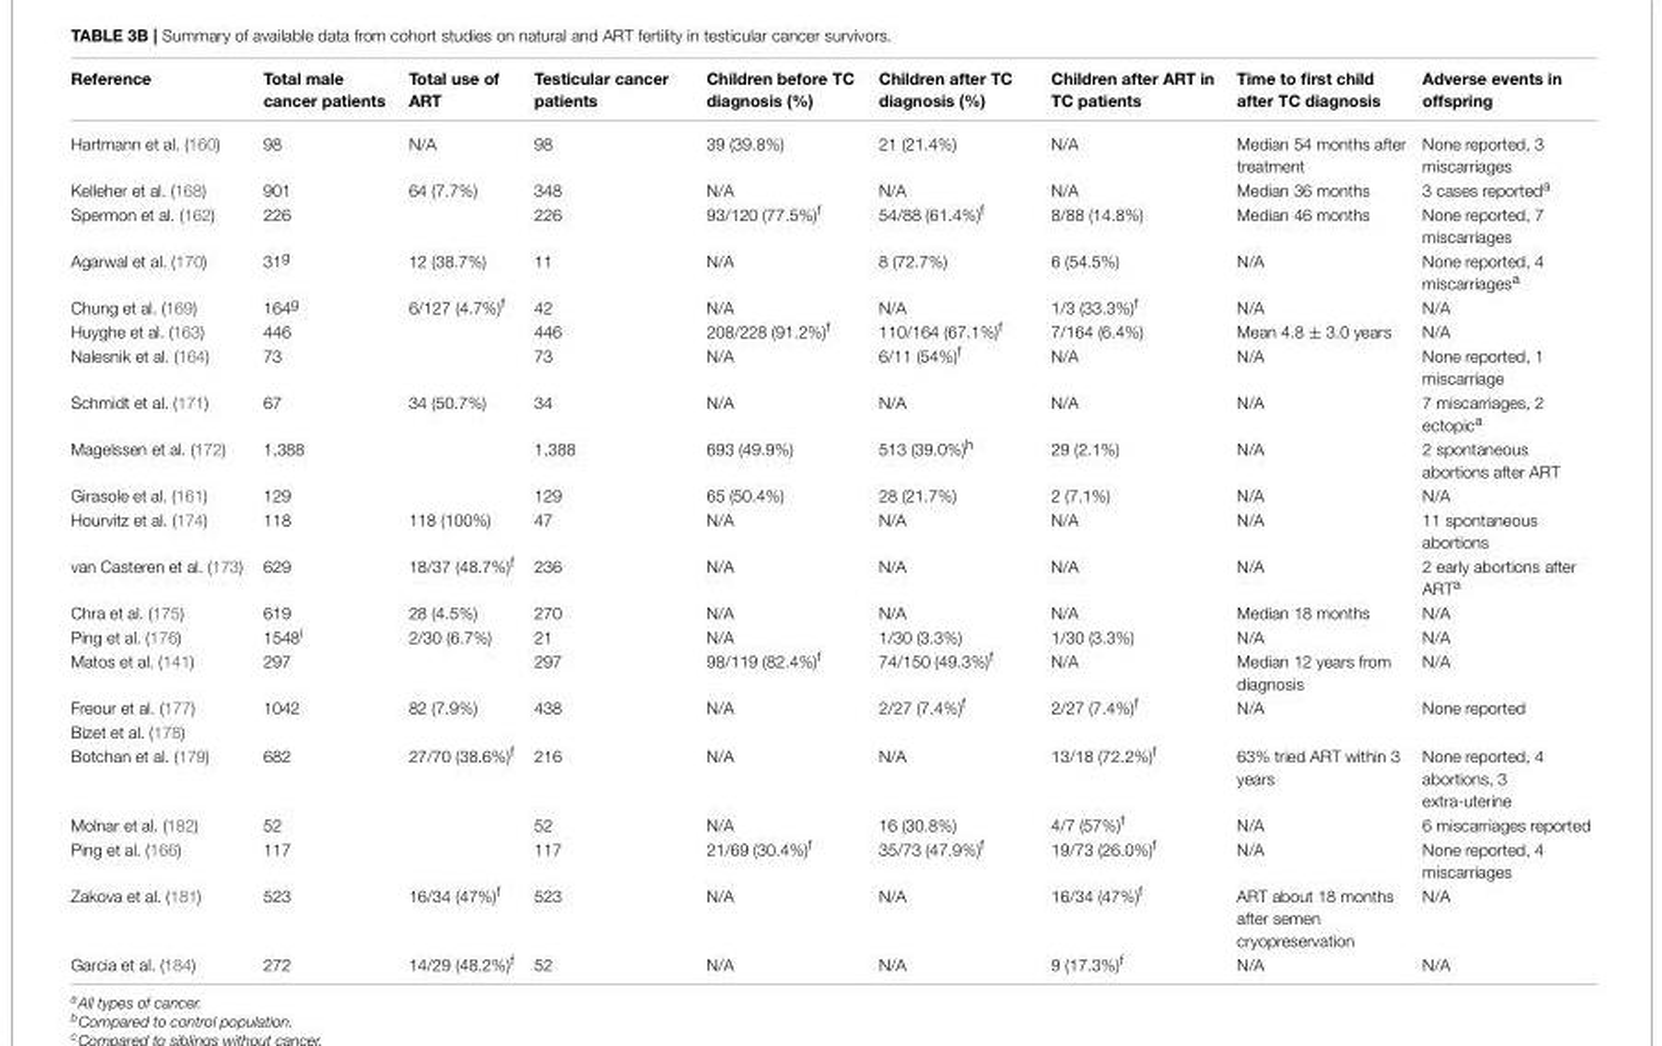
<table><thead><tr><td>Reference</td><td>Total male cancer patients</td><td>Total use of ART</td><td>Testicular cancer patients</td><td>Children before TC diagnosis (%)</td><td>Children after TC diagnosis (%)</td><td>Children after ART in TC patients</td><td>Time to first child after TC diagnosis</td><td>Adverse events in offspring</td></tr></thead><tbody><tr><td>Hartmann et al. (160)</td><td>98</td><td>N/A</td><td>98</td><td>39 (39.8%)</td><td>21 (21.4%)</td><td>N/A</td><td>Median 54 months after treatment</td><td>None reported, 3 miscarriages</td></tr><tr><td>Kelleher et al. (168)</td><td>901</td><td>64 (7.7%)</td><td>348</td><td>N/A</td><td>N/A</td><td>N/A</td><td>Median 36 months</td><td>3 cases reported<sup>a</sup></td></tr><tr><td>Spermon et al. (162)</td><td>226</td><td></td><td>226</td><td>93/120 (77.5%)<sup>f</sup></td><td>54/88 (61.4%)<sup>f</sup></td><td>8/88 (14.8%)</td><td>Median 46 months</td><td>None reported, 7 miscarriages</td></tr><tr><td>Agarwal et al. (170)</td><td>31<sup>g</sup></td><td>12 (38.7%)</td><td>11</td><td>N/A</td><td>8 (72.7%)</td><td>6 (54.5%)</td><td>N/A</td><td>None reported, 4 miscarriages<sup>a</sup></td></tr><tr><td>Chung et al. (169)</td><td>164<sup>g</sup></td><td>6/127 (4.7%)<sup>f</sup></td><td>42</td><td>N/A</td><td>N/A</td><td>1/3 (33.3%)<sup>f</sup></td><td>N/A</td><td>N/A</td></tr><tr><td>Huyghe et al. (163)</td><td>446</td><td></td><td>446</td><td>208/228 (91.2%)<sup>f</sup></td><td>110/164 (67.1%)<sup>f</sup></td><td>7/164 (6.4%)</td><td>Mean 4.8 ± 3.0 years</td><td>N/A</td></tr><tr><td>Nalesnik et al. (164)</td><td>73</td><td></td><td>73</td><td>N/A</td><td>6/11 (54%)<sup>f</sup></td><td>N/A</td><td>N/A</td><td>None reported, 1 miscarriage</td></tr><tr><td>Schmidt et al. (171)</td><td>67</td><td>34 (50.7%)</td><td>34</td><td>N/A</td><td>N/A</td><td>N/A</td><td>N/A</td><td>7 miscarriages, 2 ectopic<sup>a</sup></td></tr><tr><td>Magelssen et al. (172)</td><td>1,388</td><td></td><td>1,388</td><td>693 (49.9%)</td><td>513 (39.0%)<sup>h</sup></td><td>29 (2.1%)</td><td>N/A</td><td>2 spontaneous abortions after ART</td></tr><tr><td>Girasole et al. (161)</td><td>129</td><td></td><td>129</td><td>65 (50.4%)</td><td>28 (21.7%)</td><td>2 (7.1%)</td><td>N/A</td><td>N/A</td></tr><tr><td>Hourvitz et al. (174)</td><td>118</td><td>118 (100%)</td><td>47</td><td>N/A</td><td>N/A</td><td>N/A</td><td>N/A</td><td>11 spontaneous abortions</td></tr><tr><td>van Casteren et al. (173)</td><td>629</td><td>18/37 (48.7%)<sup>f</sup></td><td>236</td><td>N/A</td><td>N/A</td><td>N/A</td><td>N/A</td><td>2 early abortions after ART<sup>a</sup></td></tr><tr><td>Chra et al. (175)</td><td>619</td><td>28 (4.5%)</td><td>270</td><td>N/A</td><td>N/A</td><td>N/A</td><td>Median 18 months</td><td>N/A</td></tr><tr><td>Ping et al. (176)</td><td>1548<sup>i</sup></td><td>2/30 (6.7%)</td><td>21</td><td>N/A</td><td>1/30 (3.3%)</td><td>1/30 (3.3%)</td><td>N/A</td><td>N/A</td></tr><tr><td>Matos et al. (141)</td><td>297</td><td></td><td>297</td><td>98/119 (82.4%)<sup>f</sup></td><td>74/150 (49.3%)<sup>f</sup></td><td>N/A</td><td>Median 12 years from diagnosis</td><td>N/A</td></tr><tr><td>Freour et al. (177)</td><td>1042</td><td>82 (7.9%)</td><td>438</td><td>N/A</td><td>2/27 (7.4%)<sup>f</sup></td><td>2/27 (7.4%)<sup>f</sup></td><td>N/A</td><td>None reported</td></tr><tr><td colspan="9">Bizet et al. (178)</td></tr><tr><td>Botchan et al. (179)</td><td>682</td><td>27/70 (38.6%)<sup>f</sup></td><td>216</td><td>N/A</td><td>N/A</td><td>13/18 (72.2%)<sup>f</sup></td><td>63% tried ART within 3 years</td><td>None reported, 4 abortions, 3 extra-uterine</td></tr><tr><td>Molnar et al. (182)</td><td>52</td><td></td><td>52</td><td>N/A</td><td>16 (30.8%)</td><td>4/7 (57%)<sup>f</sup></td><td>N/A</td><td>6 miscarriages reported</td></tr><tr><td>Ping et al. (166)</td><td>117</td><td></td><td>117</td><td>21/69 (30.4%)<sup>f</sup></td><td>35/73 (47.9%)<sup>f</sup></td><td>19/73 (26.0%)<sup>f</sup></td><td>N/A</td><td>None reported, 4 miscarriages</td></tr><tr><td>Zakova et al. (181)</td><td>523</td><td>16/34 (47%)<sup>f</sup></td><td>523</td><td>N/A</td><td>N/A</td><td>16/34 (47%)<sup>f</sup></td><td>ART about 18 months after semen cryopreservation</td><td>N/A</td></tr><tr><td>Garcia et al. (184)</td><td>272</td><td>14/29 (48.2%)<sup>f</sup></td><td>52</td><td>N/A</td><td>N/A</td><td>9 (17.3%)<sup>f</sup></td><td>N/A</td><td>N/A</td></tr></tbody></table>